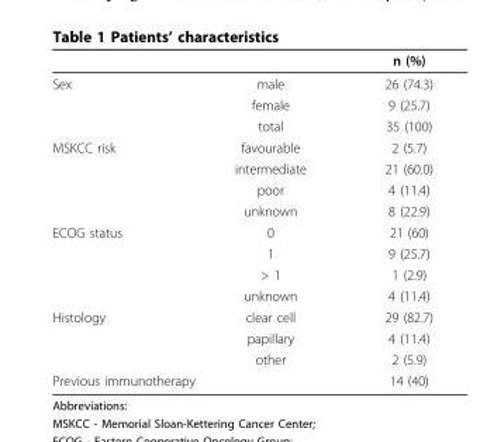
<table><thead><tr><td></td><td></td><td>n (%)</td></tr></thead><tbody><tr><td rowspan="3">Sex</td><td>male</td><td>26 (74.3)</td></tr><tr><td>female</td><td>9 (25.7)</td></tr><tr><td>total</td><td>35 (100)</td></tr><tr><td rowspan="4">MSKCC risk</td><td>favourable</td><td>2 (5.7)</td></tr><tr><td>intermediate</td><td>21 (60.0)</td></tr><tr><td>poor</td><td>4 (11.4)</td></tr><tr><td>unknown</td><td>8 (22.9)</td></tr><tr><td rowspan="4">ECOG status</td><td>0</td><td>21 (60)</td></tr><tr><td>1</td><td>9 (25.7)</td></tr><tr><td>&gt; 1</td><td>1 (2.9)</td></tr><tr><td>unknown</td><td>4 (11.4)</td></tr><tr><td rowspan="3">Histology</td><td>clear cell</td><td>29 (82.7)</td></tr><tr><td>papillary</td><td>4 (11.4)</td></tr><tr><td>other</td><td>2 (5.9)</td></tr><tr><td colspan="2">Previous immunotherapy</td><td>14 (40)</td></tr></tbody></table>